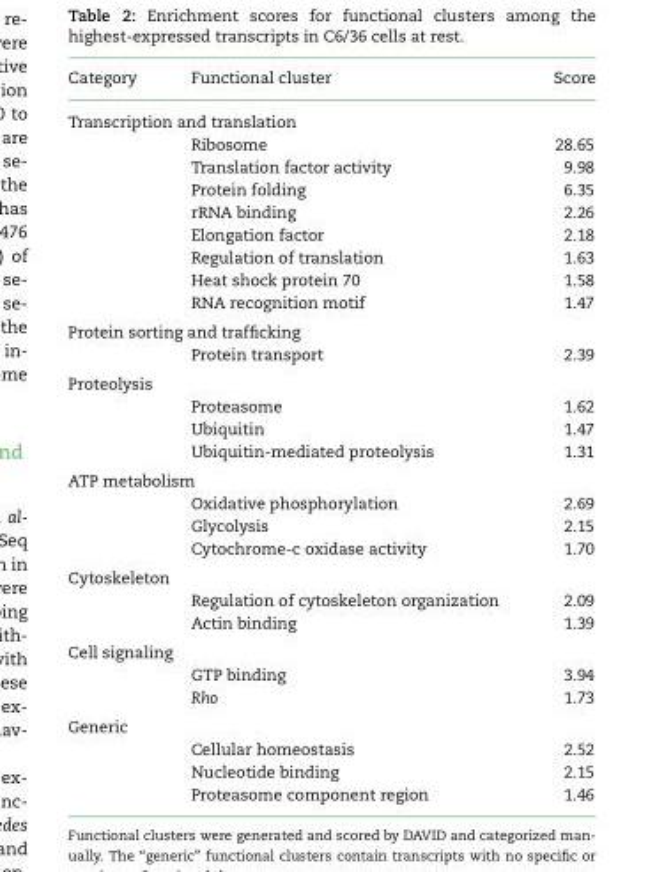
<table><thead><tr><td>Category</td><td>Functional cluster</td><td>Score</td></tr></thead><tbody><tr><td colspan="3">Transcription and translation</td></tr><tr><td></td><td>Ribosome</td><td>28.65</td></tr><tr><td></td><td>Translation factor activity</td><td>9.98</td></tr><tr><td></td><td>Protein folding</td><td>6.35</td></tr><tr><td></td><td>rRNA binding</td><td>2.26</td></tr><tr><td></td><td>Elongation factor</td><td>2.18</td></tr><tr><td></td><td>Regulation of translation</td><td>1.63</td></tr><tr><td></td><td>Heat shock protein 70</td><td>1.58</td></tr><tr><td></td><td>RNA recognition motif</td><td>1.47</td></tr><tr><td colspan="3">Protein sorting and trafficking</td></tr><tr><td></td><td>Protein transport</td><td>2.39</td></tr><tr><td colspan="3">Proteolysis</td></tr><tr><td></td><td>Proteasome</td><td>1.62</td></tr><tr><td></td><td>Ubiquitin</td><td>1.47</td></tr><tr><td></td><td>Ubiquitin-mediated proteolysis</td><td>1.31</td></tr><tr><td colspan="3">ATP metabolism</td></tr><tr><td></td><td>Oxidative phosphorylation</td><td>2.69</td></tr><tr><td></td><td>Glycolysis</td><td>2.15</td></tr><tr><td></td><td>Cytochrome-c oxidase activity</td><td>1.70</td></tr><tr><td colspan="3">Cytoskeleton</td></tr><tr><td></td><td>Regulation of cytoskeleton organization</td><td>2.09</td></tr><tr><td></td><td>Actin binding</td><td>1.39</td></tr><tr><td colspan="3">Cell signaling</td></tr><tr><td></td><td>GTP binding</td><td>3.94</td></tr><tr><td></td><td>Rho</td><td>1.73</td></tr><tr><td colspan="3">Generic</td></tr><tr><td></td><td>Cellular homeostasis</td><td>2.52</td></tr><tr><td></td><td>Nucleotide binding</td><td>2.15</td></tr><tr><td></td><td>Proteasome component region</td><td>1.46</td></tr></tbody></table>